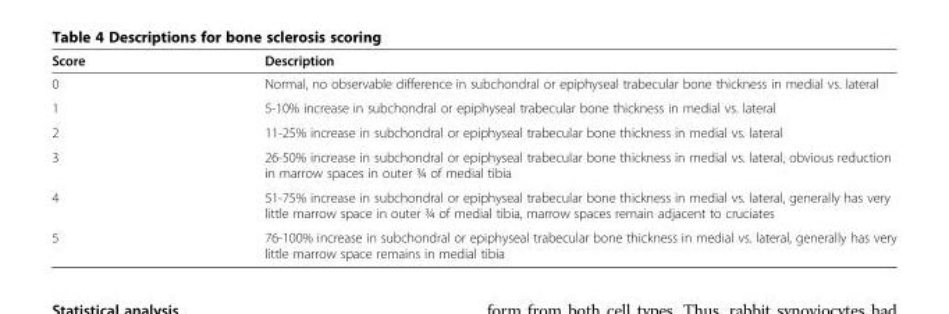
<table><thead><tr><td>Score</td><td>Description</td></tr></thead><tbody><tr><td>0</td><td>Normal, no observable difference in subchondral or epiphyseal trabecular bone thickness in medial vs. lateral</td></tr><tr><td>1</td><td>5-10% increase in subchondral or epiphyseal trabecular bone thickness in medial vs. lateral</td></tr><tr><td>2</td><td>11-25% increase in subchondral or epiphyseal trabecular bone thickness in medial vs. lateral</td></tr><tr><td>3</td><td>26-50% increase in subchondral or epiphyseal trabecular bone thickness in medial vs. lateral, obvious reduction in marrow spaces in outer ¾ of medial tibia</td></tr><tr><td>4</td><td>51-75% increase in subchondral or epiphyseal trabecular bone thickness in medial vs. lateral, generally has very little marrow space in outer ¾ of medial tibia, marrow spaces remain adjacent to cruciates</td></tr><tr><td>5</td><td>76-100% increase in subchondral or epiphyseal trabecular bone thickness in medial vs. lateral, generally has very little marrow space remains in medial tibia</td></tr></tbody></table>